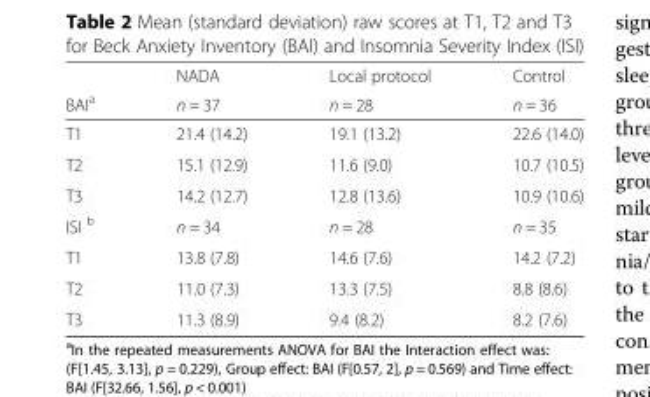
<table><thead><tr><td rowspan="2">BAI<sup>a</sup></td><td rowspan="2">NADA n = 37</td><td rowspan="2">Local protocol n = 28</td><td rowspan="2">Control n = 36</td></tr><tr></tr></thead><tbody><tr><td>T1</td><td>21.4 (14.2)</td><td>19.1 (13.2)</td><td>22.6 (14.0)</td></tr><tr><td>T2</td><td>15.1 (12.9)</td><td>11.6 (9.0)</td><td>10.7 (10.5)</td></tr><tr><td>T3</td><td>14.2 (12.7)</td><td>12.8 (13.6)</td><td>10.9 (10.6)</td></tr><tr><td>ISI <sup>b</sup></td><td>n = 34</td><td>n = 28</td><td>n = 35</td></tr><tr><td>T1</td><td>13.8 (7.8)</td><td>14.6 (7.6)</td><td>14.2 (7.2)</td></tr><tr><td>T2</td><td>11.0 (7.3)</td><td>13.3 (7.5)</td><td>8.8 (8.6)</td></tr><tr><td>T3</td><td>11.3 (8.9)</td><td>9.4 (8.2)</td><td>8.2 (7.6)</td></tr></tbody></table>